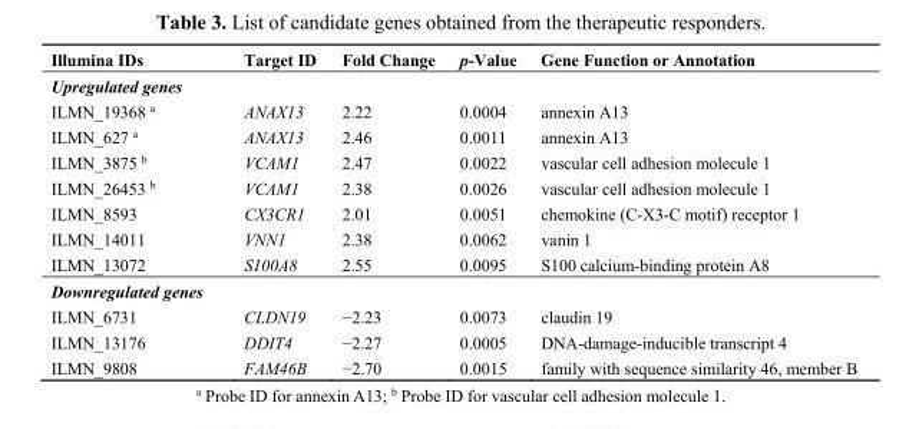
<table><thead><tr><td>Illumina IDs</td><td>Target ID</td><td>Fold Change</td><td>p-Value</td><td>Gene Function or Annotation</td></tr></thead><tbody><tr><td colspan="5">Upregulated genes</td></tr><tr><td>ILMN_19368 <sup>a</sup></td><td>ANAX13</td><td>2.22</td><td>0.0004</td><td>annexin A13</td></tr><tr><td>ILMN_627 <sup>a</sup></td><td>ANAX13</td><td>2.46</td><td>0.0011</td><td>annexin A13</td></tr><tr><td>ILMN_3875 <sup>b</sup></td><td>VCAM1</td><td>2.47</td><td>0.0022</td><td>vascular cell adhesion molecule 1</td></tr><tr><td>ILMN_26453 <sup>b</sup></td><td>VCAM1</td><td>2.38</td><td>0.0026</td><td>vascular cell adhesion molecule 1</td></tr><tr><td>ILMN_8593</td><td>CX3CR1</td><td>2.01</td><td>0.0051</td><td>chemokine (C-X3-C motif) receptor 1</td></tr><tr><td>ILMN_14011</td><td>VNN1</td><td>2.38</td><td>0.0062</td><td>vanin 1</td></tr><tr><td>ILMN_13072</td><td>S100A8</td><td>2.55</td><td>0.0095</td><td>S100 calcium-binding protein A8</td></tr><tr><td colspan="5">Downregulated genes</td></tr><tr><td>ILMN_6731</td><td>CLDN19</td><td>−2.23</td><td>0.0073</td><td>claudin 19</td></tr><tr><td>ILMN_13176</td><td>DDIT4</td><td>−2.27</td><td>0.0005</td><td>DNA-damage-inducible transcript 4</td></tr><tr><td>ILMN_9808</td><td>FAM46B</td><td>−2.70</td><td>0.0015</td><td>family with sequence similarity 46, member B</td></tr></tbody></table>